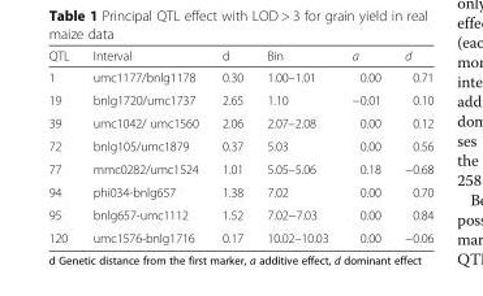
<table><thead><tr><td>QTL</td><td>Interval</td><td>d</td><td>Bin</td><td>a</td><td>d</td></tr></thead><tbody><tr><td>1</td><td>umc1177/bnlg1178</td><td>0.30</td><td>1.00–1.01</td><td>0.00</td><td>0.71</td></tr><tr><td>19</td><td>bnlg1720/umc1737</td><td>2.65</td><td>1.10</td><td>−0.01</td><td>0.10</td></tr><tr><td>39</td><td>umc1042/ umc1560</td><td>2.06</td><td>2.07–2.08</td><td>0.00</td><td>0.12</td></tr><tr><td>72</td><td>bnlg105/umc1879</td><td>0.37</td><td>5.03</td><td>0.00</td><td>0.56</td></tr><tr><td>77</td><td>mmc0282/umc1524</td><td>1.01</td><td>5.05–5.06</td><td>0.18</td><td>−0.68</td></tr><tr><td>94</td><td>phi034-bnlg657</td><td>1.38</td><td>7.02</td><td>0.00</td><td>0.70</td></tr><tr><td>95</td><td>bnlg657-umc1112</td><td>1.52</td><td>7.02−7.03</td><td>0.00</td><td>0.84</td></tr><tr><td>120</td><td>umc1576-bnlg1716</td><td>0.17</td><td>10.02–10.03</td><td>0.00</td><td>−0.06</td></tr></tbody></table>